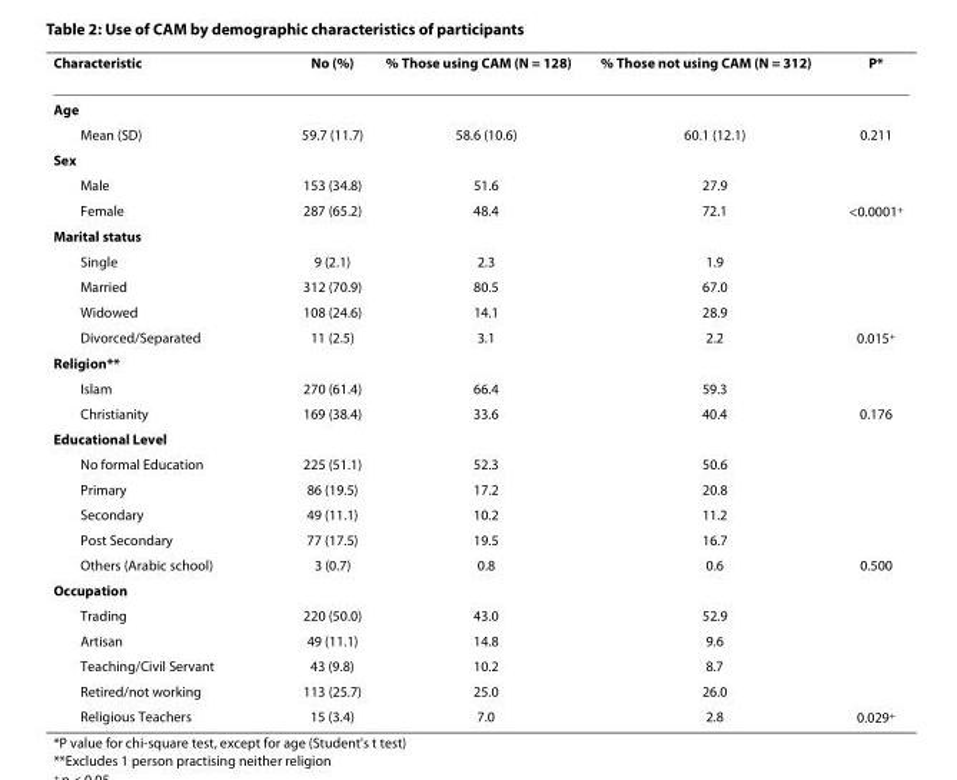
<table><thead><tr><td>Characteristic</td><td>No (%)</td><td>% Those using CAM (N = 128)</td><td>% Those not using CAM (N = 312)</td><td>P*</td></tr></thead><tbody><tr><td colspan="5">Age</td></tr><tr><td>Mean (SD)</td><td>59.7 (11.7)</td><td>58.6 (10.6)</td><td>60.1 (12.1)</td><td>0.211</td></tr><tr><td colspan="5">Sex</td></tr><tr><td>Male</td><td>153 (34.8)</td><td>51.6</td><td>27.9</td><td></td></tr><tr><td>Female</td><td>287 (65.2)</td><td>48.4</td><td>72.1</td><td>&lt;0.0001<sup>+</sup></td></tr><tr><td colspan="5">Marital status</td></tr><tr><td>Single</td><td>9 (2.1)</td><td>2.3</td><td>1.9</td><td></td></tr><tr><td>Married</td><td>312 (70.9)</td><td>80.5</td><td>67.0</td><td></td></tr><tr><td>Widowed</td><td>108 (24.6)</td><td>14.1</td><td>28.9</td><td></td></tr><tr><td>Divorced/Separated</td><td>11 (2.5)</td><td>3.1</td><td>2.2</td><td>0.015<sup>+</sup></td></tr><tr><td colspan="5">Religion**</td></tr><tr><td>Islam</td><td>270 (61.4)</td><td>66.4</td><td>59.3</td><td></td></tr><tr><td>Christianity</td><td>169 (38.4)</td><td>33.6</td><td>40.4</td><td>0.176</td></tr><tr><td colspan="5">Educational Level</td></tr><tr><td>No formal Education</td><td>225 (51.1)</td><td>52.3</td><td>50.6</td><td></td></tr><tr><td>Primary</td><td>86 (19.5)</td><td>17.2</td><td>20.8</td><td></td></tr><tr><td>Secondary</td><td>49 (11.1)</td><td>10.2</td><td>11.2</td><td></td></tr><tr><td>Post Secondary</td><td>77 (17.5)</td><td>19.5</td><td>16.7</td><td></td></tr><tr><td>Others (Arabic school)</td><td>3 (0.7)</td><td>0.8</td><td>0.6</td><td>0.500</td></tr><tr><td colspan="5">Occupation</td></tr><tr><td>Trading</td><td>220 (50.0)</td><td>43.0</td><td>52.9</td><td></td></tr><tr><td>Artisan</td><td>49 (11.1)</td><td>14.8</td><td>9.6</td><td></td></tr><tr><td>Teaching/Civil Servant</td><td>43 (9.8)</td><td>10.2</td><td>8.7</td><td></td></tr><tr><td>Retired/not working</td><td>113 (25.7)</td><td>25.0</td><td>26.0</td><td></td></tr><tr><td>Religious Teachers</td><td>15 (3.4)</td><td>7.0</td><td>2.8</td><td>0.029<sup>+</sup></td></tr></tbody></table>